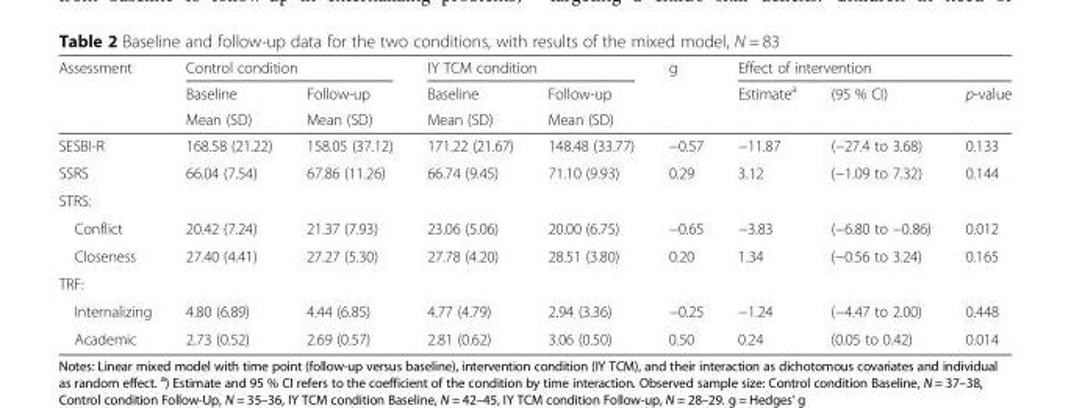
<table><thead><tr><td rowspan="3">Assessment</td><td colspan="2">Control condition</td><td colspan="2">IY TCM condition</td><td rowspan="3">g</td><td colspan="3">Effect of intervention</td></tr><tr><td rowspan="2">Baseline Mean (SD)</td><td rowspan="2">Follow-up Mean (SD)</td><td rowspan="2">Baseline Mean (SD)</td><td rowspan="2">Follow-up Mean (SD)</td><td rowspan="2">Estimate<sup>a</sup></td><td rowspan="2">(95 % CI)</td><td rowspan="2">p-value</td></tr><tr></tr></thead><tbody><tr><td>SESBI-R</td><td>168.58 (21.22)</td><td>158.05 (37.12)</td><td>171.22 (21.67)</td><td>148.48 (33.77)</td><td>−0.57</td><td>−11.87</td><td>(−27.4 to 3.68)</td><td>0.133</td></tr><tr><td>SSRS</td><td>66.04 (7.54)</td><td>67.86 (11.26)</td><td>66.74 (9.45)</td><td>71.10 (9.93)</td><td>0.29</td><td>3.12</td><td>(−1.09 to 7.32)</td><td>0.144</td></tr><tr><td colspan="9">STRS:</td></tr><tr><td>Conflict</td><td>20.42 (7.24)</td><td>21.37 (7.93)</td><td>23.06 (5.06)</td><td>20.00 (6.75)</td><td>−0.65</td><td>−3.83</td><td>(−6.80 to −0.86)</td><td>0.012</td></tr><tr><td>Closeness</td><td>27.40 (4.41)</td><td>27.27 (5.30)</td><td>27.78 (4.20)</td><td>28.51 (3.80)</td><td>0.20</td><td>1.34</td><td>(−0.56 to 3.24)</td><td>0.165</td></tr><tr><td colspan="9">TRF:</td></tr><tr><td>Internalizing</td><td>4.80 (6.89)</td><td>4.44 (6.85)</td><td>4.77 (4.79)</td><td>2.94 (3.36)</td><td>−0.25</td><td>−1.24</td><td>(−4.47 to 2.00)</td><td>0.448</td></tr><tr><td>Academic</td><td>2.73 (0.52)</td><td>2.69 (0.57)</td><td>2.81 (0.62)</td><td>3.06 (0.50)</td><td>0.50</td><td>0.24</td><td>(0.05 to 0.42)</td><td>0.014</td></tr></tbody></table>